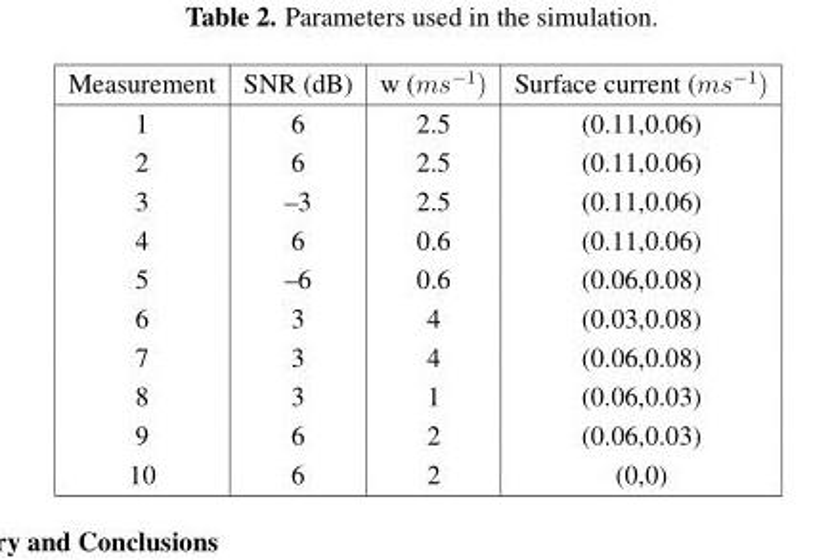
<table><thead><tr><td>Measurement</td><td>SNR (dB)</td><td>w (ms<sup>−1</sup>)</td><td>Surface current (ms<sup>−1</sup>)</td></tr></thead><tbody><tr><td>1</td><td>6</td><td>2.5</td><td>(0.11,0.06)</td></tr><tr><td>2</td><td>6</td><td>2.5</td><td>(0.11,0.06)</td></tr><tr><td>3</td><td>–3</td><td>2.5</td><td>(0.11,0.06)</td></tr><tr><td>4</td><td>6</td><td>0.6</td><td>(0.11,0.06)</td></tr><tr><td>5</td><td>–6</td><td>0.6</td><td>(0.06,0.08)</td></tr><tr><td>6</td><td>3</td><td>4</td><td>(0.03,0.08)</td></tr><tr><td>7</td><td>3</td><td>4</td><td>(0.06,0.08)</td></tr><tr><td>8</td><td>3</td><td>1</td><td>(0.06,0.03)</td></tr><tr><td>9</td><td>6</td><td>2</td><td>(0.06,0.03)</td></tr><tr><td>10</td><td>6</td><td>2</td><td>(0,0)</td></tr></tbody></table>